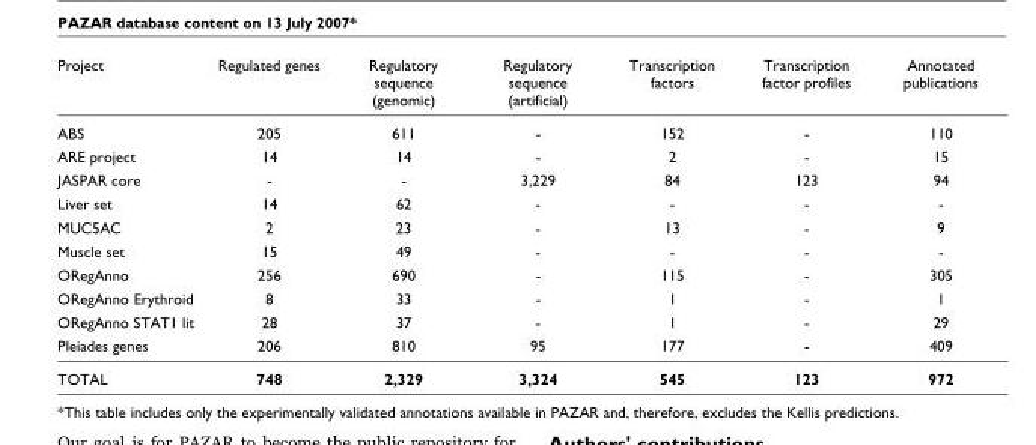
<table><thead><tr><td>Project</td><td>Regulated genes</td><td>Regulatory sequence (genomic)</td><td>Regulatory sequence (artificial)</td><td>Transcription factors</td><td>Transcription factor profiles</td><td>Annotated publications</td></tr></thead><tbody><tr><td>ABS</td><td>205</td><td>611</td><td>-</td><td>152</td><td>-</td><td>110</td></tr><tr><td>ARE project</td><td>14</td><td>14</td><td>-</td><td>2</td><td>-</td><td>15</td></tr><tr><td>JASPAR core</td><td>-</td><td>-</td><td>3,229</td><td>84</td><td>123</td><td>94</td></tr><tr><td>Liver set</td><td>14</td><td>62</td><td>-</td><td>-</td><td>-</td><td>-</td></tr><tr><td>MUC5AC</td><td>2</td><td>23</td><td>-</td><td>13</td><td>-</td><td>9</td></tr><tr><td>Muscle set</td><td>15</td><td>49</td><td>-</td><td>-</td><td>-</td><td>-</td></tr><tr><td>ORegAnno</td><td>256</td><td>690</td><td>-</td><td>115</td><td>-</td><td>305</td></tr><tr><td>ORegAnno Erythroid</td><td>8</td><td>33</td><td>-</td><td>1</td><td>-</td><td>1</td></tr><tr><td>ORegAnno STAT1 lit</td><td>28</td><td>37</td><td>-</td><td>1</td><td>-</td><td>29</td></tr><tr><td>Pleiades genes</td><td>206</td><td>810</td><td>95</td><td>177</td><td>-</td><td>409</td></tr><tr><td>TOTAL</td><td>748</td><td>2,329</td><td>3,324</td><td>545</td><td>123</td><td>972</td></tr></tbody></table>